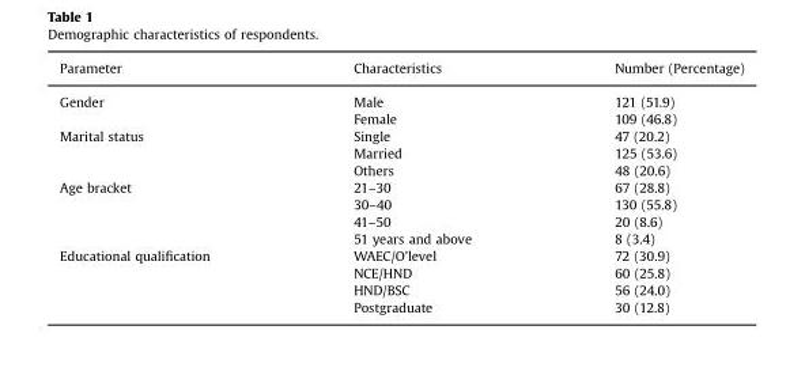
<table><thead><tr><td>Parameter</td><td>Characteristics</td><td>Number (Percentage)</td></tr></thead><tbody><tr><td rowspan="2">Gender</td><td>Male</td><td>121 (51.9)</td></tr><tr><td>Female</td><td>109 (46.8)</td></tr><tr><td rowspan="3">Marital status</td><td>Single</td><td>47 (20.2)</td></tr><tr><td>Married</td><td>125 (53.6)</td></tr><tr><td>Others</td><td>48 (20.6)</td></tr><tr><td rowspan="4">Age bracket</td><td>21–30</td><td>67 (28.8)</td></tr><tr><td>30–40</td><td>130 (55.8)</td></tr><tr><td>41–50</td><td>20 (8.6)</td></tr><tr><td>51 years and above</td><td>8 (3.4)</td></tr><tr><td rowspan="4">Educational qualification</td><td>WAEC/O’level</td><td>72 (30.9)</td></tr><tr><td>NCE/HND</td><td>60 (25.8)</td></tr><tr><td>HND/BSC</td><td>56 (24.0)</td></tr><tr><td>Postgraduate</td><td>30 (12.8)</td></tr></tbody></table>